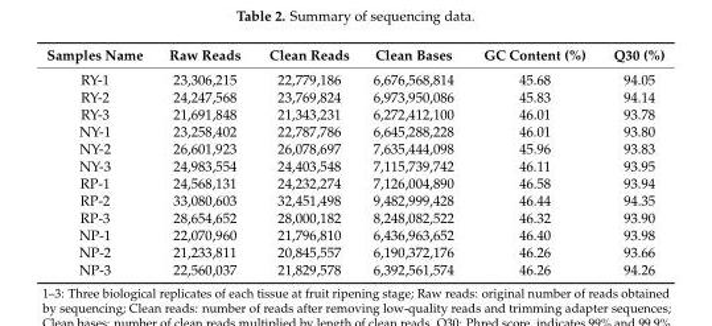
<table><thead><tr><td>Samples Name</td><td>Raw Reads</td><td>Clean Reads</td><td>Clean Bases</td><td>GC Content (%)</td><td>Q30 (%)</td></tr></thead><tbody><tr><td>RY-1</td><td>23,306,215</td><td>22,779,186</td><td>6,676,568,814</td><td>45.68</td><td>94.05</td></tr><tr><td>RY-2</td><td>24,247,568</td><td>23,769,824</td><td>6,973,950,086</td><td>45.83</td><td>94.14</td></tr><tr><td>RY-3</td><td>21,691,848</td><td>21,343,231</td><td>6,272,412,100</td><td>46.01</td><td>93.78</td></tr><tr><td>NY-1</td><td>23,258,402</td><td>22,787,786</td><td>6,645,288,228</td><td>46.01</td><td>93.80</td></tr><tr><td>NY-2</td><td>26,601,923</td><td>26,078,697</td><td>7,635,444,098</td><td>45.96</td><td>93.83</td></tr><tr><td>NY-3</td><td>24,983,554</td><td>24,403,548</td><td>7,115,739,742</td><td>46.11</td><td>93.95</td></tr><tr><td>RP-1</td><td>24,568,131</td><td>24,232,274</td><td>7,126,004,890</td><td>46.58</td><td>93.94</td></tr><tr><td>RP-2</td><td>33,080,603</td><td>32,451,498</td><td>9,482,999,428</td><td>46.44</td><td>94.35</td></tr><tr><td>RP-3</td><td>28,654,652</td><td>28,000,182</td><td>8,248,082,522</td><td>46.32</td><td>93.90</td></tr><tr><td>NP-1</td><td>22,070,960</td><td>21,796,810</td><td>6,436,963,652</td><td>46.40</td><td>93.98</td></tr><tr><td>NP-2</td><td>21,233,811</td><td>20,845,557</td><td>6,190,372,176</td><td>46.26</td><td>93.66</td></tr><tr><td>NP-3</td><td>22,560,037</td><td>21,829,578</td><td>6,392,561,574</td><td>46.26</td><td>94.26</td></tr></tbody></table>